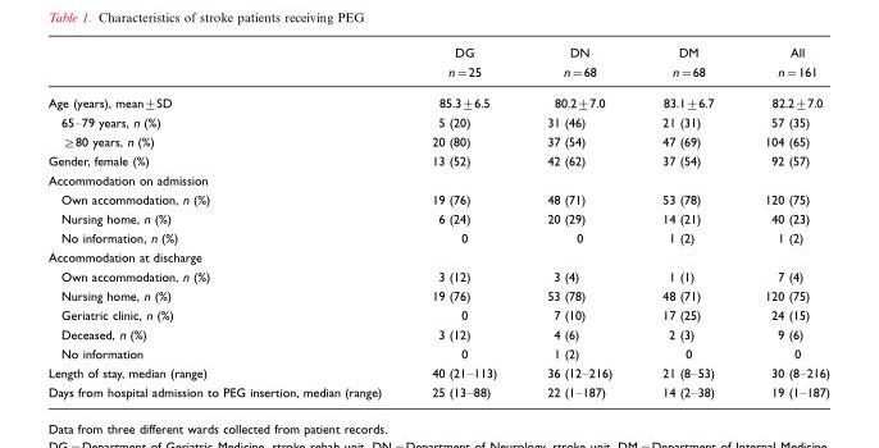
<table><thead><tr><td></td><td>DG n=25</td><td>DN n=68</td><td>DM n=68</td><td>All n=161</td></tr></thead><tbody><tr><td>Age (years), mean±SD</td><td>85.3±6.5</td><td>80.2±7.0</td><td>83.1±6.7</td><td>82.2±7.0</td></tr><tr><td>65–79 years, n (%)</td><td>5 (20)</td><td>31 (46)</td><td>21 (31)</td><td>57 (35)</td></tr><tr><td>≥80 years, n (%)</td><td>20 (80)</td><td>37 (54)</td><td>47 (69)</td><td>104 (65)</td></tr><tr><td>Gender, female (%)</td><td>13 (52)</td><td>42 (62)</td><td>37 (54)</td><td>92 (57)</td></tr><tr><td colspan="5">Accommodation on admission</td></tr><tr><td>Own accommodation, n (%)</td><td>19 (76)</td><td>48 (71)</td><td>53 (78)</td><td>120 (75)</td></tr><tr><td>Nursing home, n (%)</td><td>6 (24)</td><td>20 (29)</td><td>14 (21)</td><td>40 (23)</td></tr><tr><td>No information, n (%)</td><td>0</td><td>0</td><td>1 (2)</td><td>1 (2)</td></tr><tr><td colspan="5">Accommodation at discharge</td></tr><tr><td>Own accommodation, n (%)</td><td>3 (12)</td><td>3 (4)</td><td>1 (1)</td><td>7 (4)</td></tr><tr><td>Nursing home, n (%)</td><td>19 (76)</td><td>53 (78)</td><td>48 (71)</td><td>120 (75)</td></tr><tr><td>Geriatric clinic, n (%)</td><td>0</td><td>7 (10)</td><td>17 (25)</td><td>24 (15)</td></tr><tr><td>Deceased, n (%)</td><td>3 (12)</td><td>4 (6)</td><td>2 (3)</td><td>9 (6)</td></tr><tr><td>No information</td><td>0</td><td>1 (2)</td><td>0</td><td>0</td></tr><tr><td>Length of stay, median (range)</td><td>40 (21–113)</td><td>36 (12–216)</td><td>21 (8–53)</td><td>30 (8–216)</td></tr><tr><td>Days from hospital admission to PEG insertion, median (range)</td><td>25 (13–88)</td><td>22 (1–187)</td><td>14 (2–38)</td><td>19 (1–187)</td></tr></tbody></table>